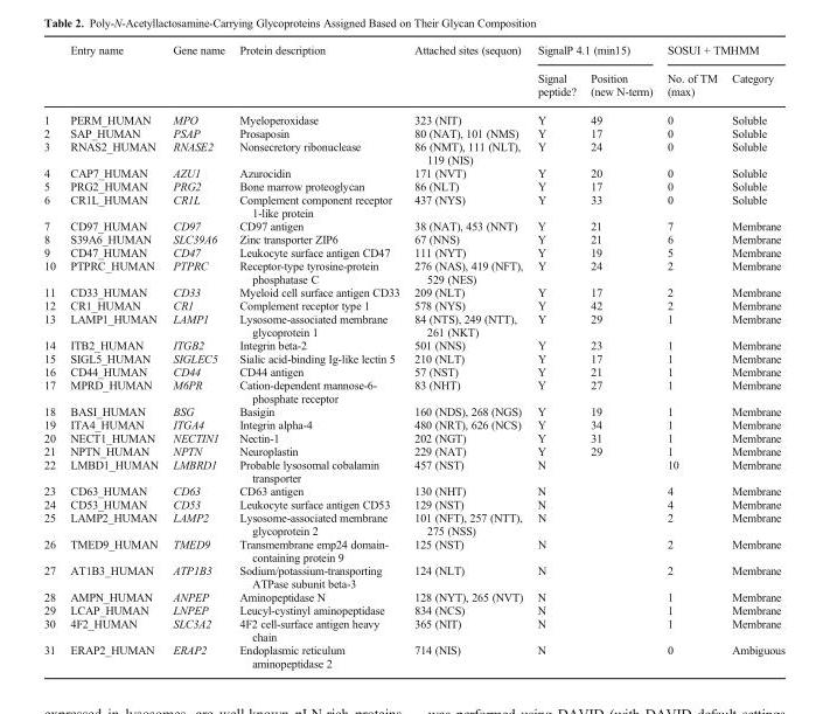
<table><thead><tr><td rowspan="2"></td><td rowspan="2">Entry name</td><td rowspan="2">Gene name</td><td rowspan="2">Protein description</td><td rowspan="2">Attached sites (sequon)</td><td colspan="2">SignalP 4.1 (min15)</td><td colspan="2">SOSUI + TMHMM</td></tr><tr><td>Signal peptide?</td><td>Position (new N-term)</td><td>No. of TM (max)</td><td>Category</td></tr></thead><tbody><tr><td>1</td><td>PERM_HUMAN</td><td>MPO</td><td>Myeloperoxidase</td><td>323 (NIT)</td><td>Y</td><td>49</td><td>0</td><td>Soluble</td></tr><tr><td>2</td><td>SAP_HUMAN</td><td>PSAP</td><td>Prosaposin</td><td>80 (NAT), 101 (NMS)</td><td>Y</td><td>17</td><td>0</td><td>Soluble</td></tr><tr><td>3</td><td>RNAS2_HUMAN</td><td>RNASE2</td><td>Nonsecretory ribonuclease</td><td>86 (NMT), 111 (NLT), 119 (NIS)</td><td>Y</td><td>24</td><td>0</td><td>Soluble</td></tr><tr><td>4</td><td>CAP7_HUMAN</td><td>AZU1</td><td>Azurocidin</td><td>171 (NVT)</td><td>Y</td><td>20</td><td>0</td><td>Soluble</td></tr><tr><td>5</td><td>PRG2_HUMAN</td><td>PRG2</td><td>Bone marrow proteoglycan</td><td>86 (NLT)</td><td>Y</td><td>17</td><td>0</td><td>Soluble</td></tr><tr><td>6</td><td>CR1L_HUMAN</td><td>CR1L</td><td>Complement component receptor 1-like protein</td><td>437 (NYS)</td><td>Y</td><td>33</td><td>0</td><td>Soluble</td></tr><tr><td>7</td><td>CD97_HUMAN</td><td>CD97</td><td>CD97 antigen</td><td>38 (NAT), 453 (NNT)</td><td>Y</td><td>21</td><td>7</td><td>Membrane</td></tr><tr><td>8</td><td>S39A6_HUMAN</td><td>SLC39A6</td><td>Zinc transporter ZIP6</td><td>67 (NNS)</td><td>Y</td><td>21</td><td>6</td><td>Membrane</td></tr><tr><td>9</td><td>CD47_HUMAN</td><td>CD47</td><td>Leukocyte surface antigen CD47</td><td>111 (NYT)</td><td>Y</td><td>19</td><td>5</td><td>Membrane</td></tr><tr><td>10</td><td>PTPRC_HUMAN</td><td>PTPRC</td><td>Receptor-type tyrosine-protein phosphatase C</td><td>276 (NAS), 419 (NFT), 529 (NES)</td><td>Y</td><td>24</td><td>2</td><td>Membrane</td></tr><tr><td>11</td><td>CD33_HUMAN</td><td>CD33</td><td>Myeloid cell surface antigen CD33</td><td>209 (NLT)</td><td>Y</td><td>17</td><td>2</td><td>Membrane</td></tr><tr><td>12</td><td>CR1_HUMAN</td><td>CR1</td><td>Complement receptor type 1</td><td>578 (NYS)</td><td>Y</td><td>42</td><td>2</td><td>Membrane</td></tr><tr><td>13</td><td>LAMP1_HUMAN</td><td>LAMP1</td><td>Lysosome-associated membrane glycoprotein 1</td><td>84 (NTS), 249 (NTT), 261 (NKT)</td><td>Y</td><td>29</td><td>1</td><td>Membrane</td></tr><tr><td>14</td><td>ITB2_HUMAN</td><td>ITGB2</td><td>Integrin beta-2</td><td>501 (NNS)</td><td>Y</td><td>23</td><td>1</td><td>Membrane</td></tr><tr><td>15</td><td>SIGL5_HUMAN</td><td>SIGLEC5</td><td>Sialic acid-binding Ig-like lectin 5</td><td>210 (NLT)</td><td>Y</td><td>17</td><td>1</td><td>Membrane</td></tr><tr><td>16</td><td>CD44_HUMAN</td><td>CD44</td><td>CD44 antigen</td><td>57 (NST)</td><td>Y</td><td>21</td><td>1</td><td>Membrane</td></tr><tr><td>17</td><td>MPRD_HUMAN</td><td>M6PR</td><td>Cation-dependent mannose-6- phosphate receptor</td><td>83 (NHT)</td><td>Y</td><td>27</td><td>1</td><td>Membrane</td></tr><tr><td>18</td><td>BASI_HUMAN</td><td>BSG</td><td>Basigin</td><td>160 (NDS), 268 (NGS)</td><td>Y</td><td>19</td><td>1</td><td>Membrane</td></tr><tr><td>19</td><td>ITA4_HUMAN</td><td>ITGA4</td><td>Integrin alpha-4</td><td>480 (NRT), 626 (NCS)</td><td>Y</td><td>34</td><td>1</td><td>Membrane</td></tr><tr><td>20</td><td>NECT1_HUMAN</td><td>NECTIN1</td><td>Nectin-1</td><td>202 (NGT)</td><td>Y</td><td>31</td><td>1</td><td>Membrane</td></tr><tr><td>21</td><td>NPTN_HUMAN</td><td>NPTN</td><td>Neuroplastin</td><td>229 (NAT)</td><td>Y</td><td>29</td><td>1</td><td>Membrane</td></tr><tr><td>22</td><td>LMBD1_HUMAN</td><td>LMBRD1</td><td>Probable lysosomal cobalamin transporter</td><td>457 (NST)</td><td>N</td><td></td><td>10</td><td>Membrane</td></tr><tr><td>23</td><td>CD63_HUMAN</td><td>CD63</td><td>CD63 antigen</td><td>130 (NHT)</td><td>N</td><td></td><td>4</td><td>Membrane</td></tr><tr><td>24</td><td>CD53_HUMAN</td><td>CD53</td><td>Leukocyte surface antigen CD53</td><td>129 (NST)</td><td>N</td><td></td><td>4</td><td>Membrane</td></tr><tr><td>25</td><td>LAMP2_HUMAN</td><td>LAMP2</td><td>Lysosome-associated membrane glycoprotein 2</td><td>101 (NFT), 257 (NTT), 275 (NSS)</td><td>N</td><td></td><td>2</td><td>Membrane</td></tr><tr><td>26</td><td>TMED9_HUMAN</td><td>TMED9</td><td>Transmembrane emp24 domain- containing protein 9</td><td>125 (NST)</td><td>N</td><td></td><td>2</td><td>Membrane</td></tr><tr><td>27</td><td>AT1B3_HUMAN</td><td>ATP1B3</td><td>Sodium/potassium-transporting ATPase subunit beta-3</td><td>124 (NLT)</td><td>N</td><td></td><td>2</td><td>Membrane</td></tr><tr><td>28</td><td>AMPN_HUMAN</td><td>ANPEP</td><td>Aminopeptidase N</td><td>128 (NYT), 265 (NVT)</td><td>N</td><td></td><td>1</td><td>Membrane</td></tr><tr><td>29</td><td>LCAP_HUMAN</td><td>LNPEP</td><td>Leucyl-cystinyl aminopeptidase</td><td>834 (NCS)</td><td>N</td><td></td><td>1</td><td>Membrane</td></tr><tr><td>30</td><td>4F2_HUMAN</td><td>SLC3A2</td><td>4F2 cell-surface antigen heavy chain</td><td>365 (NIT)</td><td>N</td><td></td><td>1</td><td>Membrane</td></tr><tr><td>31</td><td>ERAP2_HUMAN</td><td>ERAP2</td><td>Endoplasmic reticulum aminopeptidase 2</td><td>714 (NIS)</td><td>N</td><td></td><td>0</td><td>Ambiguous</td></tr></tbody></table>